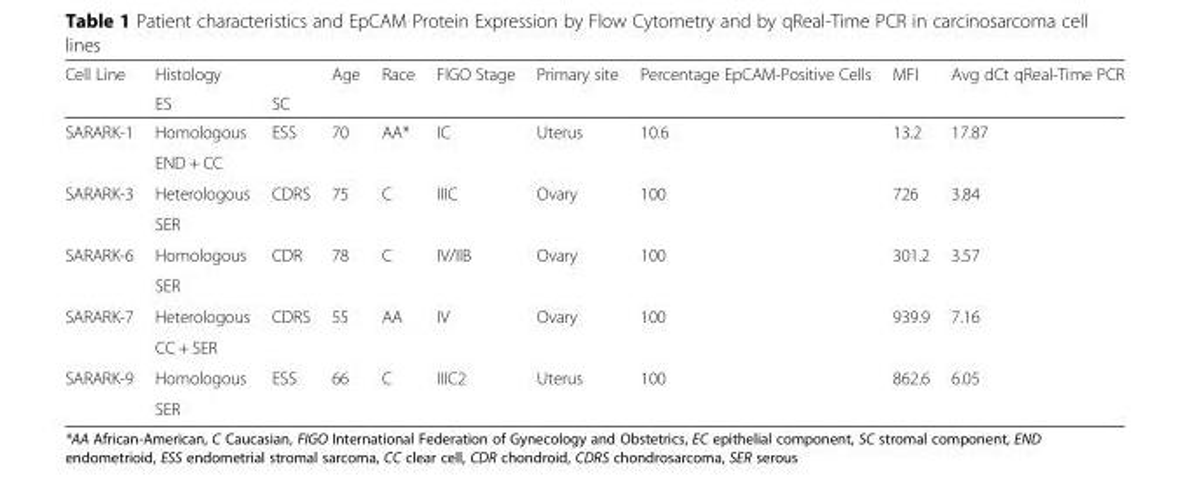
<table><thead><tr><td rowspan="2">Cell Line</td><td rowspan="2">Histology ES</td><td rowspan="2">SC</td><td rowspan="2">Age</td><td rowspan="2">Race</td><td rowspan="2">FIGO Stage</td><td rowspan="2">Primary site</td><td rowspan="2">Percentage EpCAM-Positive Cells</td><td rowspan="2">MFI</td><td rowspan="2">Avg dCt qReal-Time PCR</td></tr><tr></tr></thead><tbody><tr><td rowspan="2">SARARK-1</td><td>Homologous</td><td rowspan="2">ESS</td><td rowspan="2">70</td><td rowspan="2">AA*</td><td rowspan="2">IC</td><td rowspan="2">Uterus</td><td rowspan="2">10.6</td><td rowspan="2">13.2</td><td rowspan="2">17.87</td></tr><tr><td>END + CC</td></tr><tr><td rowspan="2">SARARK-3</td><td>Heterologous</td><td rowspan="2">CDRS</td><td rowspan="2">75</td><td rowspan="2">C</td><td rowspan="2">IIIC</td><td rowspan="2">Ovary</td><td rowspan="2">100</td><td rowspan="2">726</td><td rowspan="2">3.84</td></tr><tr><td>SER</td></tr><tr><td rowspan="2">SARARK-6</td><td>Homologous</td><td rowspan="2">CDR</td><td rowspan="2">78</td><td rowspan="2">C</td><td rowspan="2">IV/IIB</td><td rowspan="2">Ovary</td><td rowspan="2">100</td><td rowspan="2">301.2</td><td rowspan="2">3.57</td></tr><tr><td>SER</td></tr><tr><td rowspan="2">SARARK-7</td><td>Heterologous</td><td rowspan="2">CDRS</td><td rowspan="2">55</td><td rowspan="2">AA</td><td rowspan="2">IV</td><td rowspan="2">Ovary</td><td rowspan="2">100</td><td rowspan="2">939.9</td><td rowspan="2">7.16</td></tr><tr><td>CC + SER</td></tr><tr><td rowspan="2">SARARK-9</td><td>Homologous</td><td rowspan="2">ESS</td><td rowspan="2">66</td><td rowspan="2">C</td><td rowspan="2">IIIC2</td><td rowspan="2">Uterus</td><td rowspan="2">100</td><td rowspan="2">862.6</td><td rowspan="2">6.05</td></tr><tr><td>SER</td></tr></tbody></table>